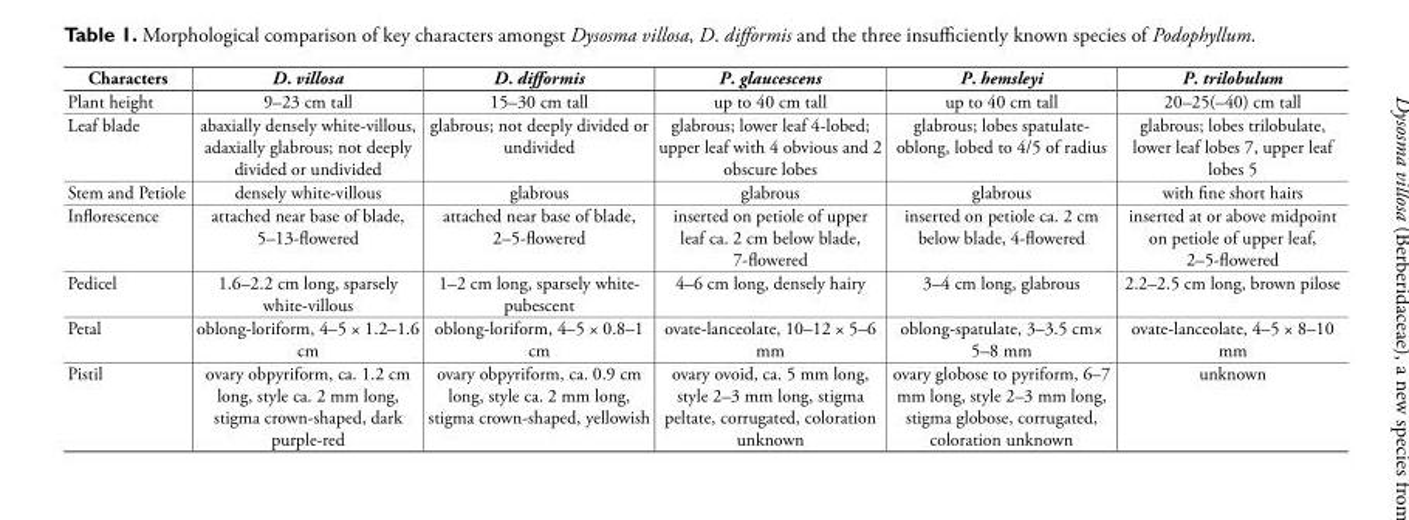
<table><thead><tr><td>Characters</td><td>D. villosa</td><td>D. difformis</td><td>P. glaucescens</td><td>P. hemsleyi</td><td>P. trilobulum</td></tr></thead><tbody><tr><td>Plant height</td><td>9–23 cm tall</td><td>15–30 cm tall</td><td>up to 40 cm tall</td><td>up to 40 cm tall</td><td>20–25(–40) cm tall</td></tr><tr><td>Leaf blade</td><td>abaxially densely white-villous, adaxially glabrous; not deeply divided or undivided</td><td>glabrous; not deeply divided or undivided</td><td>glabrous; lower leaf 4-lobed; upper leaf with 4 obvious and 2 obscure lobes</td><td>glabrous; lobes spatulate- oblong, lobed to 4/5 of radius</td><td>glabrous; lobes trilobulate, lower leaf lobes 7, upper leaf lobes 5</td></tr><tr><td>Stem and Petiole</td><td>densely white-villous</td><td>glabrous</td><td>glabrous</td><td>glabrous</td><td>with fine short hairs</td></tr><tr><td>Inflorescence</td><td>attached near base of blade, 5–13-flowered</td><td>attached near base of blade, 2–5-flowered</td><td>inserted on petiole of upper leaf ca. 2 cm below blade, 7-flowered</td><td>inserted on petiole ca. 2 cm below blade, 4-flowered</td><td>inserted at or above midpoint on petiole of upper leaf, 2–5-flowered</td></tr><tr><td>Pedicel</td><td>1.6–2.2 cm long, sparsely white-villous</td><td>1–2 cm long, sparsely white- pubescent</td><td>4–6 cm long, densely hairy</td><td>3–4 cm long, glabrous</td><td>2.2–2.5 cm long, brown pilose</td></tr><tr><td>Petal</td><td>oblong-loriform, 4–5 × 1.2–1.6 cm</td><td>oblong-loriform, 4–5 × 0.8–1 cm</td><td>ovate-lanceolate, 10–12 × 5–6 mm</td><td>oblong-spatulate, 3–3.5 cm× 5–8 mm</td><td>ovate-lanceolate, 4–5 × 8–10 mm</td></tr><tr><td>Pistil</td><td>ovary obpyriform, ca. 1.2 cm long, style ca. 2 mm long, stigma crown-shaped, dark purple-red</td><td>ovary obpyriform, ca. 0.9 cm long, style ca. 2 mm long, stigma crown-shaped, yellowish</td><td>ovary ovoid, ca. 5 mm long, style 2–3 mm long, stigma peltate, corrugated, coloration unknown</td><td>ovary globose to pyriform, 6–7 mm long, style 2–3 mm long, stigma globose, corrugated, coloration unknown</td><td>unknown</td></tr></tbody></table>